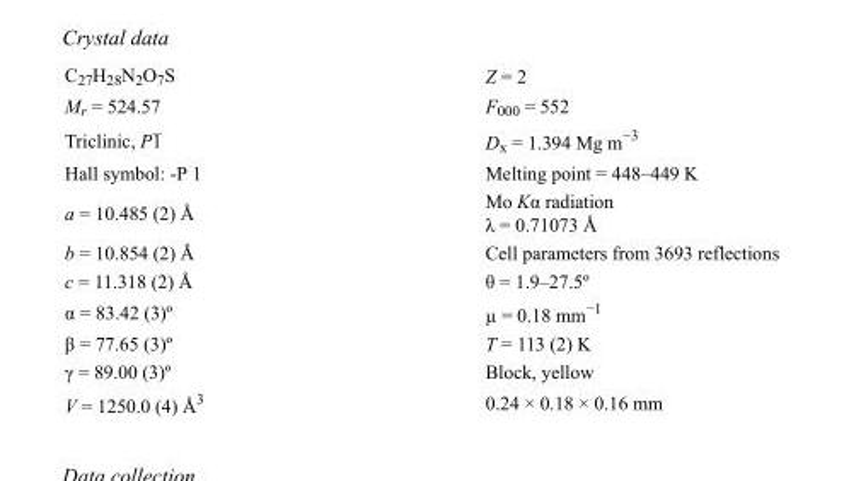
<table><tbody><tr><td>C<sub>27</sub>H<sub>28</sub>N<sub>2</sub>O<sub>7</sub>S</td><td>Z = 2</td></tr><tr><td>M<sub>r</sub> = 524.57</td><td>F000 = 552</td></tr><tr><td>Triclinic, P1</td><td>D<sub>x</sub> = 1.394 Mg m<sup>−3</sup></td></tr><tr><td>Hall symbol: -P 1</td><td>Melting point = 448–449 K</td></tr><tr><td>a = 10.485 (2) Å</td><td>Mo Kα radiation λ = 0.71073 Å</td></tr><tr><td>b = 10.854 (2) Å</td><td>Cell parameters from 3693 reflections</td></tr><tr><td>c = 11.318 (2) Å</td><td>θ = 1.9–27.5º</td></tr><tr><td>α = 83.42 (3)º</td><td>µ = 0.18 mm<sup>−1</sup></td></tr><tr><td>β = 77.65 (3)º</td><td>T = 113 (2) K</td></tr><tr><td>γ = 89.00 (3)º</td><td>Block, yellow</td></tr><tr><td>V = 1250.0 (4) Å<sup>3</sup></td><td>0.24 × 0.18 × 0.16 mm</td></tr></tbody></table>